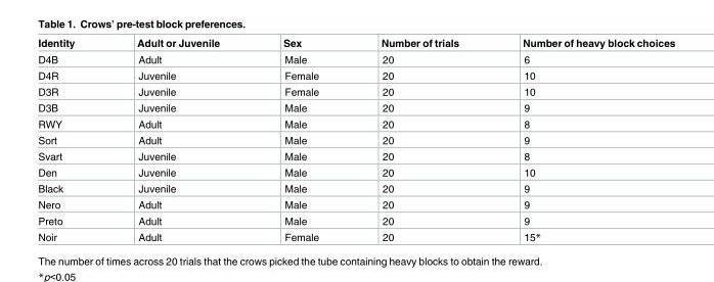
<table><thead><tr><td>Identity</td><td>Adult or Juvenile</td><td>Sex</td><td>Number of trials</td><td>Number of heavy block choices</td></tr></thead><tbody><tr><td>D4B</td><td>Adult</td><td>Male</td><td>20</td><td>6</td></tr><tr><td>D4R</td><td>Juvenile</td><td>Female</td><td>20</td><td>10</td></tr><tr><td>D3R</td><td>Juvenile</td><td>Female</td><td>20</td><td>10</td></tr><tr><td>D3B</td><td>Juvenile</td><td>Male</td><td>20</td><td>9</td></tr><tr><td>RWY</td><td>Adult</td><td>Male</td><td>20</td><td>8</td></tr><tr><td>Sort</td><td>Adult</td><td>Male</td><td>20</td><td>9</td></tr><tr><td>Svart</td><td>Juvenile</td><td>Male</td><td>20</td><td>8</td></tr><tr><td>Den</td><td>Juvenile</td><td>Male</td><td>20</td><td>10</td></tr><tr><td>Black</td><td>Juvenile</td><td>Male</td><td>20</td><td>9</td></tr><tr><td>Nero</td><td>Adult</td><td>Male</td><td>20</td><td>9</td></tr><tr><td>Preto</td><td>Adult</td><td>Male</td><td>20</td><td>9</td></tr><tr><td>Noir</td><td>Adult</td><td>Female</td><td>20</td><td>15*</td></tr></tbody></table>